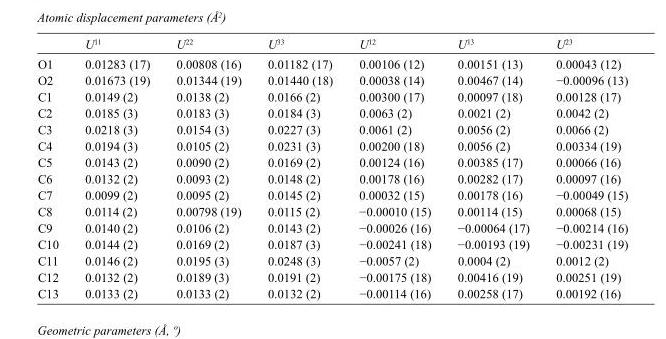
<table><thead><tr><td></td><td>U<sup>11</sup></td><td>U<sup>22</sup></td><td>U<sup>33</sup></td><td>U<sup>12</sup></td><td>U<sup>13</sup></td><td>U<sup>23</sup></td></tr></thead><tbody><tr><td>O1</td><td>0.01283 (17)</td><td>0.00808 (16)</td><td>0.01182 (17)</td><td>0.00106 (12)</td><td>0.00151 (13)</td><td>0.00043 (12)</td></tr><tr><td>O2</td><td>0.01673 (19)</td><td>0.01344 (19)</td><td>0.01440 (18)</td><td>0.00038 (14)</td><td>0.00467 (14)</td><td>−0.00096 (13)</td></tr><tr><td>C1</td><td>0.0149 (2)</td><td>0.0138 (2)</td><td>0.0166 (2)</td><td>0.00300 (17)</td><td>0.00097 (18)</td><td>0.00128 (17)</td></tr><tr><td>C2</td><td>0.0185 (3)</td><td>0.0183 (3)</td><td>0.0184 (3)</td><td>0.0063 (2)</td><td>0.0021 (2)</td><td>0.0042 (2)</td></tr><tr><td>C3</td><td>0.0218 (3)</td><td>0.0154 (3)</td><td>0.0227 (3)</td><td>0.0061 (2)</td><td>0.0056 (2)</td><td>0.0066 (2)</td></tr><tr><td>C4</td><td>0.0194 (3)</td><td>0.0105 (2)</td><td>0.0231 (3)</td><td>0.00200 (18)</td><td>0.0056 (2)</td><td>0.00334 (19)</td></tr><tr><td>C5</td><td>0.0143 (2)</td><td>0.0090 (2)</td><td>0.0169 (2)</td><td>0.00124 (16)</td><td>0.00385 (17)</td><td>0.00066 (16)</td></tr><tr><td>C6</td><td>0.0132 (2)</td><td>0.0093 (2)</td><td>0.0148 (2)</td><td>0.00178 (16)</td><td>0.00282 (17)</td><td>0.00097 (16)</td></tr><tr><td>C7</td><td>0.0099 (2)</td><td>0.0095 (2)</td><td>0.0145 (2)</td><td>0.00032 (15)</td><td>0.00178 (16)</td><td>−0.00049 (15)</td></tr><tr><td>C8</td><td>0.0114 (2)</td><td>0.00798 (19)</td><td>0.0115 (2)</td><td>−0.00010 (15)</td><td>0.00114 (15)</td><td>0.00068 (15)</td></tr><tr><td>C9</td><td>0.0140 (2)</td><td>0.0106 (2)</td><td>0.0143 (2)</td><td>−0.00026 (16)</td><td>−0.00064 (17)</td><td>−0.00214 (16)</td></tr><tr><td>C10</td><td>0.0144 (2)</td><td>0.0169 (2)</td><td>0.0187 (3)</td><td>−0.00241 (18)</td><td>−0.00193 (19)</td><td>−0.00231 (19)</td></tr><tr><td>C11</td><td>0.0146 (2)</td><td>0.0195 (3)</td><td>0.0248 (3)</td><td>−0.0057 (2)</td><td>0.0004 (2)</td><td>0.0012 (2)</td></tr><tr><td>C12</td><td>0.0132 (2)</td><td>0.0189 (3)</td><td>0.0191 (2)</td><td>−0.00175 (18)</td><td>0.00416 (19)</td><td>0.00251 (19)</td></tr><tr><td>C13</td><td>0.0133 (2)</td><td>0.0133 (2)</td><td>0.0132 (2)</td><td>−0.00114 (16)</td><td>0.00258 (17)</td><td>0.00192 (16)</td></tr></tbody></table>